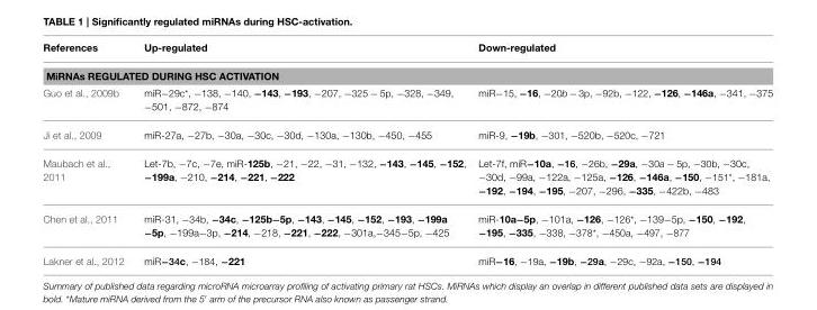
<table><thead><tr><td>References</td><td>Up-regulated</td><td>Down-regulated</td></tr></thead><tbody><tr><td colspan="3">MiRNAs REGULATED DURING HSC ACTIVATION</td></tr><tr><td>Guo et al., 2009b</td><td>miR−29c*, −138, −140, −143, −193, −207, −325 − 5p, −328, −349, −501, −872, −874</td><td>miR−15, −16, −20b − 3p, −92b, −122, −126, −146a, −341, −375</td></tr><tr><td>Ji et al., 2009</td><td>miR-27a, −27b, −30a, −30c, −30d, −130a, −130b, −450, −455</td><td>miR-9, −19b, −301, −520b, −520c, −721</td></tr><tr><td>Maubach et al., 2011</td><td>Let-7b, −7c, −7e, miR-125b, −21, −22, −31, −132, −143, −145, −152, −199a, −210, −214, −221, −222</td><td>Let-7f, miR−10a, −16, −26b, −29a, −30a − 5p, −30b, −30c, −30d, −99a, −122a, −125a, −126, −146a, −150, −151*, −181a, −192, −194, −195, −207, −296, −335, −422b, −483</td></tr><tr><td>Chen et al., 2011</td><td>miR-31, −34b, −34c, −125b−5p, −143, −145, −152, −193, −199a −5p, −199a−3p, −214, −218, −221, −222, −301a,−345−5p, −425</td><td>miR-10a−5p, −101a, −126, −126*, −139−5p, −150, −192, −195, −335, −338, −378*, −450a, −497, −877</td></tr><tr><td>Lakner et al., 2012</td><td>miR−34c, −184, −221</td><td>miR−16, −19a, −19b, −29a, −29c, −92a, −150, −194</td></tr></tbody></table>